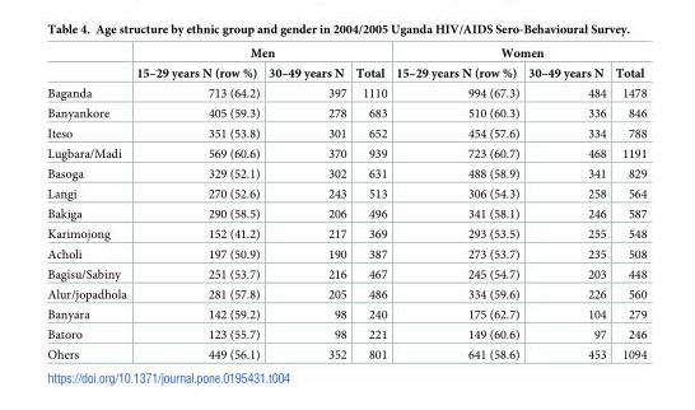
<table><thead><tr><td rowspan="2"></td><td colspan="3">Men</td><td colspan="3">Women</td></tr><tr><td>15–29 years N (row %)</td><td>30–49 years N</td><td>Total</td><td>15–29 years N (row %)</td><td>30–49 years N</td><td>Total</td></tr></thead><tbody><tr><td>Baganda</td><td>713 (64.2)</td><td>397</td><td>1110</td><td>994 (67.3)</td><td>484</td><td>1478</td></tr><tr><td>Banyankore</td><td>405 (59.3)</td><td>278</td><td>683</td><td>510 (60.3)</td><td>336</td><td>846</td></tr><tr><td>Iteso</td><td>351 (53.8)</td><td>301</td><td>652</td><td>454 (57.6)</td><td>334</td><td>788</td></tr><tr><td>Lugbara/Madi</td><td>569 (60.6)</td><td>370</td><td>939</td><td>723 (60.7)</td><td>468</td><td>1191</td></tr><tr><td>Basoga</td><td>329 (52.1)</td><td>302</td><td>631</td><td>488 (58.9)</td><td>341</td><td>829</td></tr><tr><td>Langi</td><td>270 (52.6)</td><td>243</td><td>513</td><td>306 (54.3)</td><td>258</td><td>564</td></tr><tr><td>Bakiga</td><td>290 (58.5)</td><td>206</td><td>496</td><td>341 (58.1)</td><td>246</td><td>587</td></tr><tr><td>Karimojong</td><td>152 (41.2)</td><td>217</td><td>369</td><td>293 (53.5)</td><td>255</td><td>548</td></tr><tr><td>Acholi</td><td>197 (50.9)</td><td>190</td><td>387</td><td>273 (53.7)</td><td>235</td><td>508</td></tr><tr><td>Bagisu/Sabiny</td><td>251 (53.7)</td><td>216</td><td>467</td><td>245 (54.7)</td><td>203</td><td>448</td></tr><tr><td>Alur/jopadhola</td><td>281 (57.8)</td><td>205</td><td>486</td><td>334 (59.6)</td><td>226</td><td>560</td></tr><tr><td>Banyara</td><td>142 (59.2)</td><td>98</td><td>240</td><td>175 (62.7)</td><td>104</td><td>279</td></tr><tr><td>Batoro</td><td>123 (55.7)</td><td>98</td><td>221</td><td>149 (60.6)</td><td>97</td><td>246</td></tr><tr><td>Ohers</td><td>449 (56.1)</td><td>352</td><td>801</td><td>641 (58.6)</td><td>453</td><td>1094</td></tr></tbody></table>